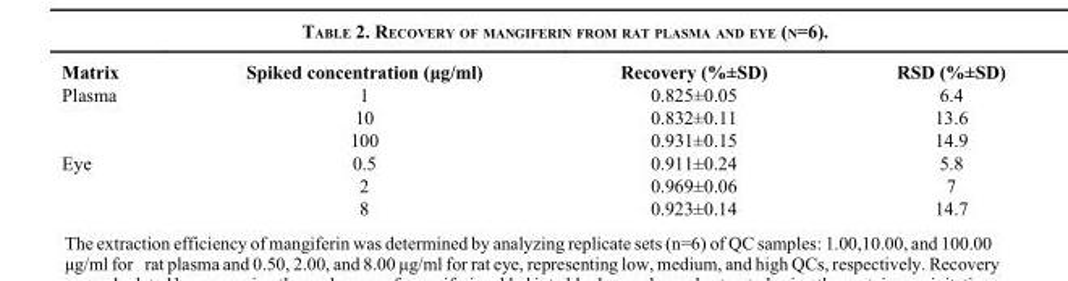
<table><thead><tr><td>Matrix</td><td>Spiked concentration (μg/ml)</td><td>Recovery (%±SD)</td><td>RSD (%±SD)</td></tr></thead><tbody><tr><td rowspan="3">Plasma</td><td>1</td><td>0.825±0.05</td><td>6.4</td></tr><tr><td>10</td><td>0.832±0.11</td><td>13.6</td></tr><tr><td>100</td><td>0.931±0.15</td><td>14.9</td></tr><tr><td rowspan="3">Eye</td><td>0.5</td><td>0.911±0.24</td><td>5.8</td></tr><tr><td>2</td><td>0.969±0.06</td><td>7</td></tr><tr><td>8</td><td>0.923±0.14</td><td>14.7</td></tr></tbody></table>